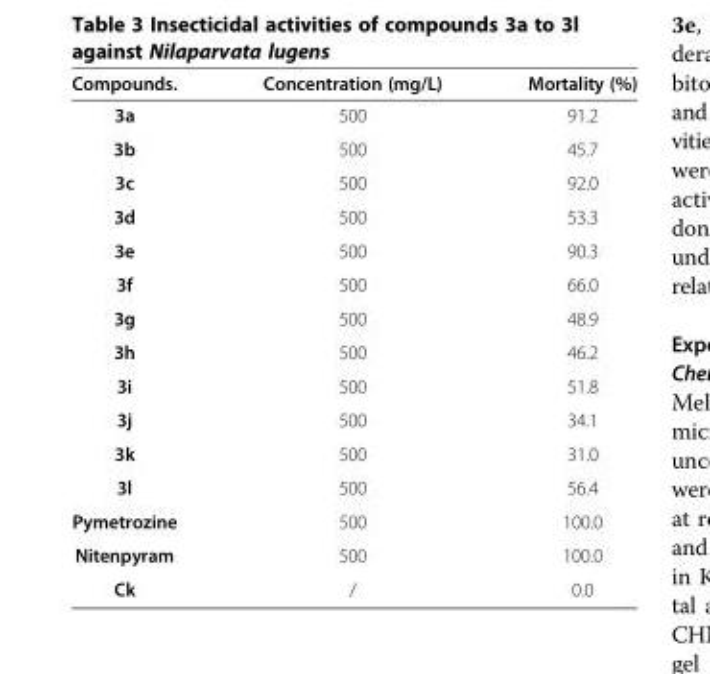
<table><thead><tr><td>Compounds.</td><td>Concentration (mg/L)</td><td>Mortality (%)</td></tr></thead><tbody><tr><td>3a</td><td>500</td><td>91.2</td></tr><tr><td>3b</td><td>500</td><td>45.7</td></tr><tr><td>3c</td><td>500</td><td>92.0</td></tr><tr><td>3d</td><td>500</td><td>53.3</td></tr><tr><td>3e</td><td>500</td><td>90.3</td></tr><tr><td>3f</td><td>500</td><td>66.0</td></tr><tr><td>3g</td><td>500</td><td>48.9</td></tr><tr><td>3h</td><td>500</td><td>46.2</td></tr><tr><td>3i</td><td>500</td><td>51.8</td></tr><tr><td>3j</td><td>500</td><td>34.1</td></tr><tr><td>3k</td><td>500</td><td>31.0</td></tr><tr><td>3l</td><td>500</td><td>56.4</td></tr><tr><td>Pymetrozine</td><td>500</td><td>100.0</td></tr><tr><td>Nitenpyram</td><td>500</td><td>100.0</td></tr><tr><td>Ck</td><td>/</td><td>0.0</td></tr></tbody></table>